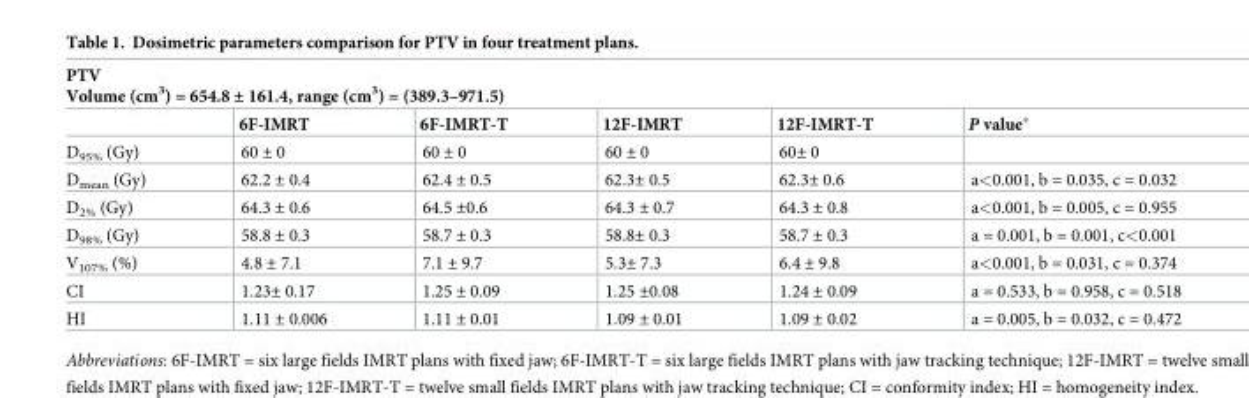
<table><thead><tr><td colspan="6">PTV Volume (cm<sup>3</sup>) = 654.8 ± 161.4, range (cm<sup>3</sup>) = (389.3–971.5)</td></tr><tr><td></td><td>6F-IMRT</td><td>6F-IMRT-T</td><td>12F-IMRT</td><td>12F-IMRT-T</td><td>P value*</td></tr></thead><tbody><tr><td>D<sub>95%</sub> (Gy)</td><td>60 ± 0</td><td>60 ± 0</td><td>60 ± 0</td><td>60± 0</td><td></td></tr><tr><td>D<sub>mean</sub> (Gy)</td><td>62.2 ± 0.4</td><td>62.4 ± 0.5</td><td>62.3± 0.5</td><td>62.3± 0.6</td><td>a&lt;0.001, b = 0.035, c = 0.032</td></tr><tr><td>D<sub>2%</sub> (Gy)</td><td>64.3 ± 0.6</td><td>64.5 ±0.6</td><td>64.3 ± 0.7</td><td>64.3 ± 0.8</td><td>a&lt;0.001, b = 0.005, c = 0.955</td></tr><tr><td>D<sub>98%</sub> (Gy)</td><td>58.8 ± 0.3</td><td>58.7 ± 0.3</td><td>58.8± 0.3</td><td>58.7 ± 0.3</td><td>a = 0.001, b = 0.001, c&lt;0.001</td></tr><tr><td>V<sub>107%</sub> (%)</td><td>4.8 ± 7.1</td><td>7.1 ± 9.7</td><td>5.3± 7.3</td><td>6.4 ± 9.8</td><td>a&lt;0.001, b = 0.031, c = 0.374</td></tr><tr><td>CI</td><td>1.23± 0.17</td><td>1.25 ± 0.09</td><td>1.25 ±0.08</td><td>1.24 ± 0.09</td><td>a = 0.533, b = 0.958, c = 0.518</td></tr><tr><td>HI</td><td>1.11 ± 0.006</td><td>1.11 ± 0.01</td><td>1.09 ± 0.01</td><td>1.09 ± 0.02</td><td>a = 0.005, b = 0.032, c = 0.472</td></tr></tbody></table>